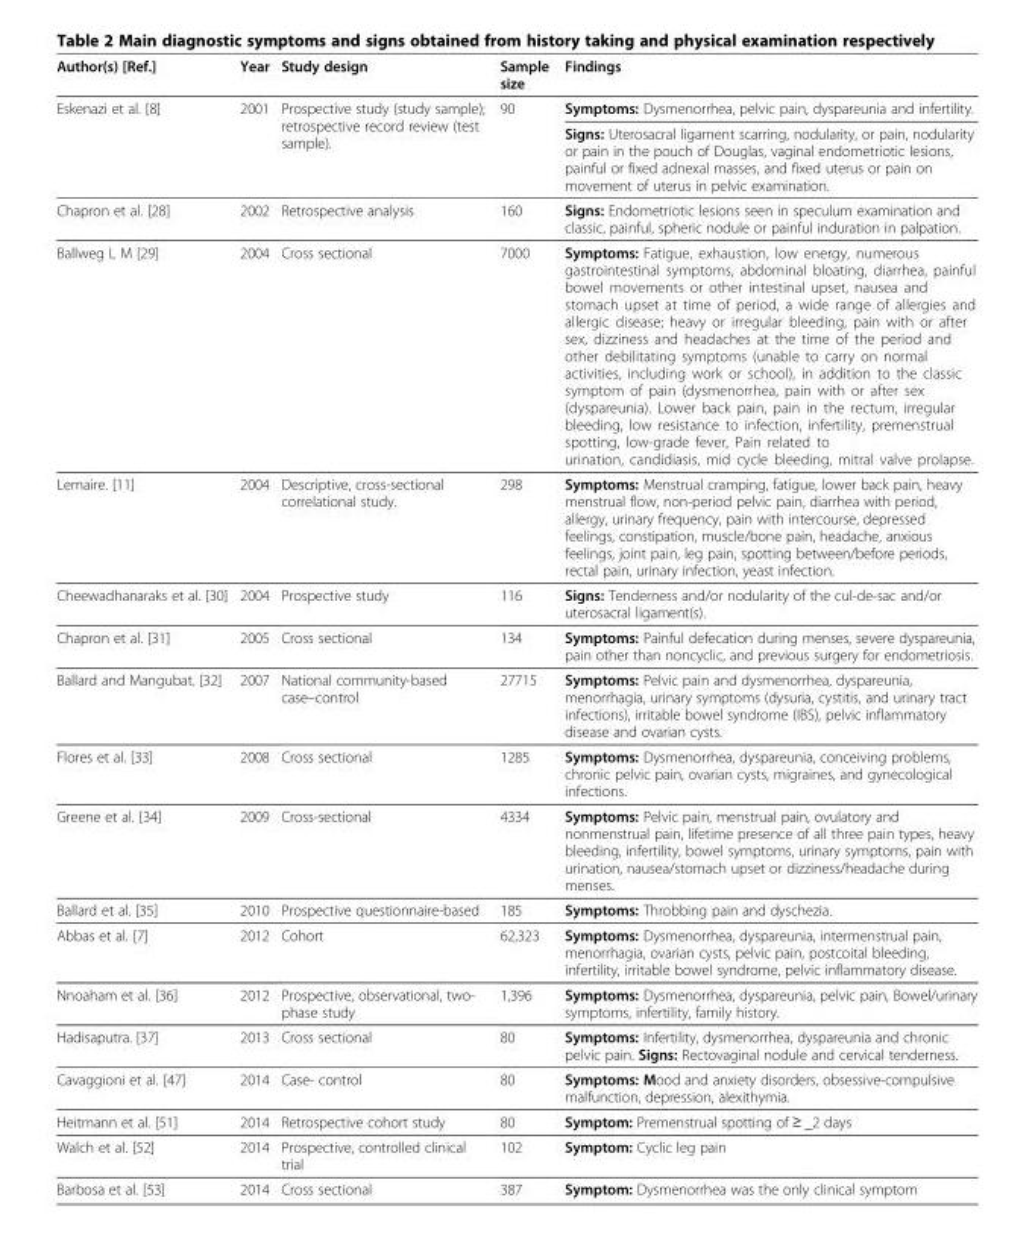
<table><thead><tr><td>Author(s) [Ref.]</td><td>Year</td><td>Study design</td><td>Sample size</td><td>Findings</td></tr></thead><tbody><tr><td rowspan="2">Eskenazi et al. [8]</td><td rowspan="2">2001</td><td rowspan="2">Prospective study (study sample); retrospective record review (test sample).</td><td rowspan="2">90</td><td>Symptoms: Dysmenorrhea, pelvic pain, dyspareunia and infertility.</td></tr><tr><td>Signs: Uterosacral ligament scarring, nodularity, or pain, nodularity or pain in the pouch of Douglas, vaginal endometriotic lesions, painful or fixed adnexal masses, and fixed uterus or pain on movement of uterus in pelvic examination.</td></tr><tr><td>Chapron et al. [28]</td><td>2002</td><td>Retrospective analysis</td><td>160</td><td>Signs: Endometriotic lesions seen in speculum examination and classic, painful, spheric nodule or painful induration in palpation.</td></tr><tr><td>Ballweg L M [29]</td><td>2004</td><td>Cross sectional</td><td>7000</td><td>Symptoms: Fatigue, exhaustion, low energy, numerous gastrointestinal symptoms, abdominal bloating, diarrhea, painful bowel movements or other intestinal upset, nausea and stomach upset at time of period, a wide range of allergies and allergic disease; heavy or irregular bleeding, pain with or after sex, dizziness and headaches at the time of the period and other debilitating symptoms (unable to carry on normal activities, including work or school), in addition to the classic symptom of pain (dysmenorrhea, pain with or after sex (dyspareunia). Lower back pain, pain in the rectum, irregular bleeding, low resistance to infection, infertility, premenstrual spotting, low-grade fever, Pain related to urination, candidiasis, mid cycle bleeding, mitral valve prolapse.</td></tr><tr><td>Lemaire. [11]</td><td>2004</td><td>Descriptive, cross-sectional correlational study.</td><td>298</td><td>Symptoms: Menstrual cramping, fatigue, lower back pain, heavy menstrual flow, non-period pelvic pain, diarrhea with period, allergy, urinary frequency, pain with intercourse, depressed feelings, constipation, muscle/bone pain, headache, anxious feelings, joint pain, leg pain, spotting between/before periods, rectal pain, urinary infection, yeast infection.</td></tr><tr><td>Cheewadhanaraks et al. [30]</td><td>2004</td><td>Prospective study</td><td>116</td><td>Signs: Tenderness and/or nodularity of the cul-de-sac and/or uterosacral ligament(s).</td></tr><tr><td>Chapron et al. [31]</td><td>2005</td><td>Cross sectional</td><td>134</td><td>Symptoms: Painful defecation during menses, severe dyspareunia, pain other than noncyclic, and previous surgery for endometriosis.</td></tr><tr><td>Ballard and Mangubat. [32]</td><td>2007</td><td>National community-based case–control</td><td>27715</td><td>Symptoms: Pelvic pain and dysmenorrhea, dyspareunia, menorrhagia, urinary symptoms (dysuria, cystitis, and urinary tract infections), irritable bowel syndrome (IBS), pelvic inflammatory disease and ovarian cysts.</td></tr><tr><td>Flores et al. [33]</td><td>2008</td><td>Cross sectional</td><td>1285</td><td>Symptoms: Dysmenorrhea, dyspareunia, conceiving problems, chronic pelvic pain, ovarian cysts, migraines, and gynecological infections.</td></tr><tr><td>Greene et al. [34]</td><td>2009</td><td>Cross-sectional</td><td>4334</td><td>Symptoms: Pelvic pain, menstrual pain, ovulatory and nonmenstrual pain, lifetime presence of all three pain types, heavy bleeding, infertility, bowel symptoms, urinary symptoms, pain with urination, nausea/stomach upset or dizziness/headache during menses.</td></tr><tr><td>Ballard et al. [35]</td><td>2010</td><td>Prospective questionnaire-based</td><td>185</td><td>Symptoms: Throbbing pain and dyschezia.</td></tr><tr><td>Abbas et al. [7]</td><td>2012</td><td>Cohort</td><td>62,323</td><td>Symptoms: Dysmenorrhea, dyspareunia, intermenstrual pain, menorrhagia, ovarian cysts, pelvic pain, postcoital bleeding, infertility, irritable bowel syndrome, pelvic inflammatory disease.</td></tr><tr><td>Nnoaham et al. [36]</td><td>2012</td><td>Prospective, observational, two- phase study</td><td>1,396</td><td>Symptoms: Dysmenorrhea, dyspareunia, pelvic pain, Bowel/urinary symptoms, infertility, family history.</td></tr><tr><td>Hadisaputra. [37]</td><td>2013</td><td>Cross sectional</td><td>80</td><td>Symptoms: Infertility, dysmenorrhea, dyspareunia and chronic pelvic pain. Signs: Rectovaginal nodule and cervical tenderness.</td></tr><tr><td>Cavaggioni et al. [47]</td><td>2014</td><td>Case- control</td><td>80</td><td>Symptoms: Mood and anxiety disorders, obsessive-compulsive malfunction, depression, alexithymia.</td></tr><tr><td>Heitmann et al. [51]</td><td>2014</td><td>Retrospective cohort study</td><td>80</td><td>Symptom: Premenstrual spotting of ≥ _2 days</td></tr><tr><td>Walch et al. [52]</td><td>2014</td><td>Prospective, controlled clinical trial</td><td>102</td><td>Symptom: Cyclic leg pain</td></tr><tr><td>Barbosa et al. [53]</td><td>2014</td><td>Cross sectional</td><td>387</td><td>Symptom: Dysmenorrhea was the only clinical symptom</td></tr></tbody></table>